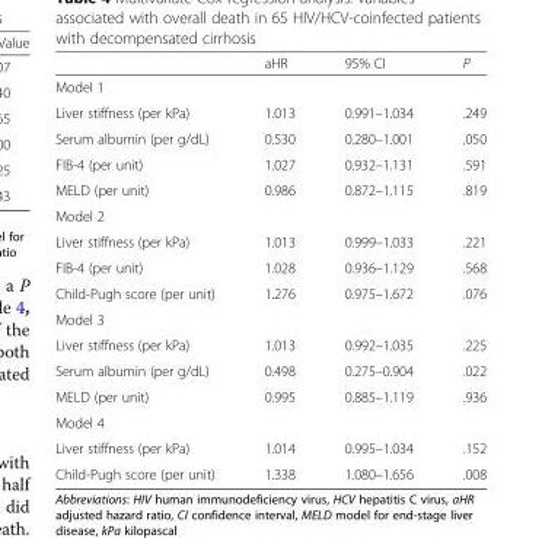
<table><thead><tr><td></td><td>aHR</td><td>95% CI</td><td>P</td></tr></thead><tbody><tr><td colspan="4">Model 1</td></tr><tr><td>Liver stiffness (per kPa)</td><td>1.013</td><td>0.991–1.034</td><td>.249</td></tr><tr><td>Serum albumin (per g/dL)</td><td>0.530</td><td>0.280–1.001</td><td>.050</td></tr><tr><td>FIB-4 (per unit)</td><td>1.027</td><td>0.932–1.131</td><td>.591</td></tr><tr><td>MELD (per unit)</td><td>0.986</td><td>0.872–1.115</td><td>.819</td></tr><tr><td colspan="4">Model 2</td></tr><tr><td>Liver stiffness (per kPa)</td><td>1.013</td><td>0.999–1.033</td><td>.221</td></tr><tr><td>FIB-4 (per unit)</td><td>1.028</td><td>0.936–1.129</td><td>.568</td></tr><tr><td>Child-Pugh score (per unit)</td><td>1.276</td><td>0.975–1.672</td><td>.076</td></tr><tr><td colspan="4">Model 3</td></tr><tr><td>Liver stiffness (per kPa)</td><td>1.013</td><td>0.992–1.035</td><td>.225</td></tr><tr><td>Serum albumin (per g/dL)</td><td>0.498</td><td>0.275–0.904</td><td>.022</td></tr><tr><td>MELD (per unit)</td><td>0.995</td><td>0.885–1.119</td><td>.936</td></tr><tr><td colspan="4">Model 4</td></tr><tr><td>Liver stiffness (per kPa)</td><td>1.014</td><td>0.995–1.034</td><td>.152</td></tr><tr><td>Child-Pugh score (per unit)</td><td>1.338</td><td>1.080–1.656</td><td>.008</td></tr></tbody></table>